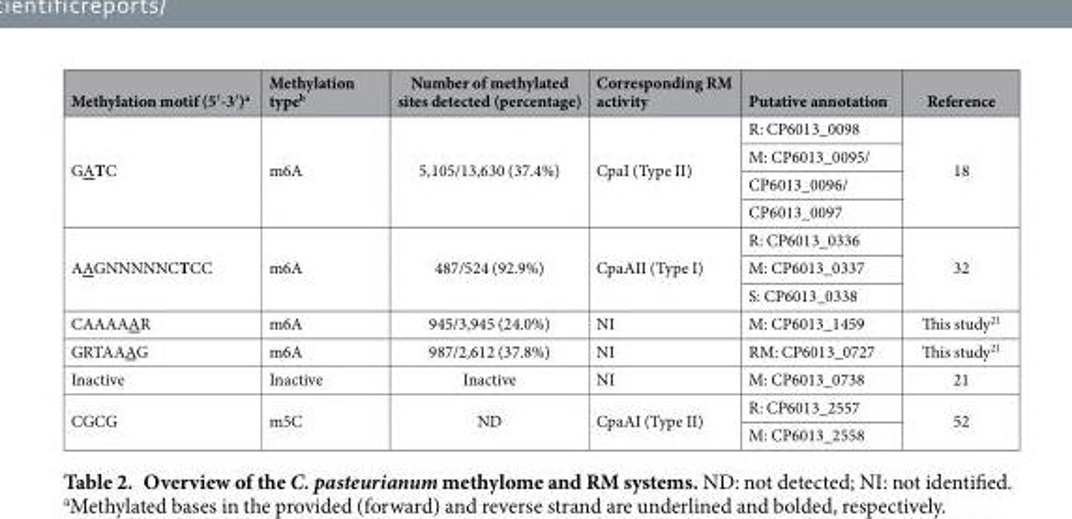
<table><thead><tr><td>Methylation motif (5′ -3′ )<sup>a</sup></td><td>Methylation type<sup>b</sup></td><td>Number of methylated sites detected (percentage)</td><td>Corresponding RM activity</td><td>Putative annotation</td><td>Reference</td></tr></thead><tbody><tr><td rowspan="4">GATC</td><td rowspan="4">m6A</td><td rowspan="4">5,105/13,630 (37.4%)</td><td rowspan="4">CpaI (Type II)</td><td>R: CP6013_0098</td><td rowspan="4">18</td></tr><tr><td>M: CP6013_0095/</td></tr><tr><td>CP6013_0096/</td></tr><tr><td>CP6013_0097</td></tr><tr><td rowspan="3">AAGNNNNNCTCC</td><td rowspan="3">m6A</td><td rowspan="3">487/524 (92.9%)</td><td rowspan="3">CpaAII (Type I)</td><td>R: CP6013_0336</td><td rowspan="3">32</td></tr><tr><td>M: CP6013_0337</td></tr><tr><td>S: CP6013_0338</td></tr><tr><td>CAAAAAR</td><td>m6A</td><td>945/3,945 (24.0%)</td><td>NI</td><td>M: CP6013_1459</td><td>This study<sup>21</sup></td></tr><tr><td>GRTAAAG</td><td>m6A</td><td>987/2,612 (37.8%)</td><td>NI</td><td>RM: CP6013_0727</td><td>This study<sup>21</sup></td></tr><tr><td>Inactive</td><td>Inactive</td><td>Inactive</td><td>NI</td><td>M: CP6013_0738</td><td>21</td></tr><tr><td rowspan="2">CGCG</td><td rowspan="2">m5C</td><td rowspan="2">ND</td><td rowspan="2">CpaAI (Type II)</td><td>R: CP6013_2557</td><td rowspan="2">52</td></tr><tr><td>M: CP6013_2558</td></tr></tbody></table>